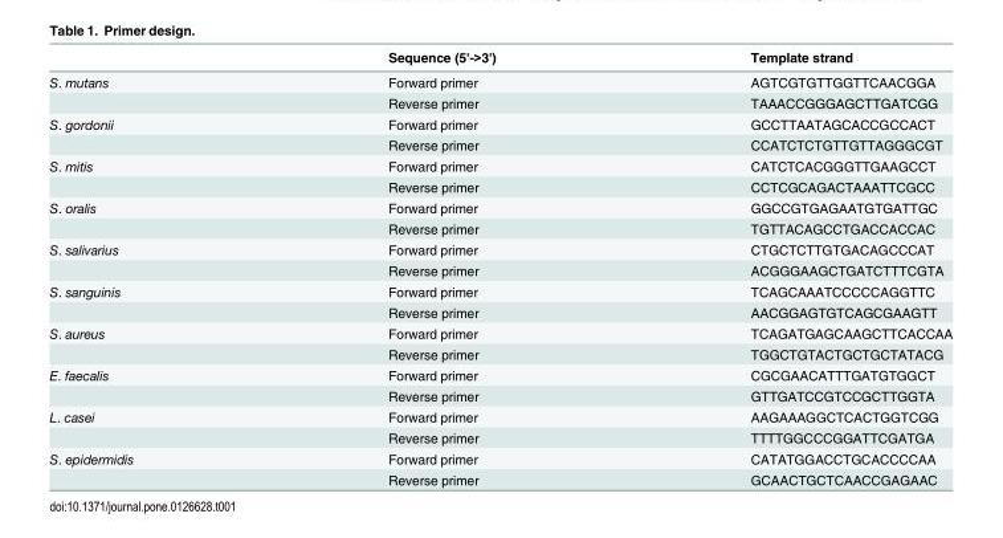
<table><thead><tr><td></td><td>Sequence (5&#x27;-&gt;3&#x27;)</td><td>Template strand</td></tr></thead><tbody><tr><td rowspan="2">S. mutans</td><td>Forward primer</td><td>AGTCGTGTTGGTTCAACGGA</td></tr><tr><td>Reverse primer</td><td>TAAACCGGGAGCTTGATCGG</td></tr><tr><td rowspan="2">S. gordonii</td><td>Forward primer</td><td>GCCTTAATAGCACCGCCACT</td></tr><tr><td>Reverse primer</td><td>CCATCTCTGTTGTTAGGGCGT</td></tr><tr><td rowspan="2">S. mitis</td><td>Forward primer</td><td>CATCTCACGGGTTGAAGCCT</td></tr><tr><td>Reverse primer</td><td>CCTCGCAGACTAAATTCGCC</td></tr><tr><td rowspan="2">S. oralis</td><td>Forward primer</td><td>GGCCGTGAGAATGTGATTGC</td></tr><tr><td>Reverse primer</td><td>TGTTACAGCCTGACCACCAC</td></tr><tr><td rowspan="2">S. salivarius</td><td>Forward primer</td><td>CTGCTCTTGTGACAGCCCAT</td></tr><tr><td>Reverse primer</td><td>ACGGGAAGCTGATCTTTCGTA</td></tr><tr><td rowspan="2">S. sanguinis</td><td>Forward primer</td><td>TCAGCAAATCCCCCAGGTTC</td></tr><tr><td>Reverse primer</td><td>AACGGAGTGTCAGCGAAGTT</td></tr><tr><td rowspan="2">S. aureus</td><td>Forward primer</td><td>TCAGATGAGCAAGCTTCACCAA</td></tr><tr><td>Reverse primer</td><td>TGGCTGTACTGCTGCTATACG</td></tr><tr><td rowspan="2">E. faecalis</td><td>Forward primer</td><td>CGCGAACATTTGATGTGGCT</td></tr><tr><td>Reverse primer</td><td>GTTGATCCGTCCGCTTGGTA</td></tr><tr><td rowspan="2">L. casei</td><td>Forward primer</td><td>AAGAAAGGCTCACTGGTCGG</td></tr><tr><td>Reverse primer</td><td>TTTTGGCCCGGATTCGATGA</td></tr><tr><td rowspan="2">S. epidermidis</td><td>Forward primer</td><td>CATATGGACCTGCACCCCAA</td></tr><tr><td>Reverse primer</td><td>GCAACTGCTCAACCGAGAAC</td></tr></tbody></table>